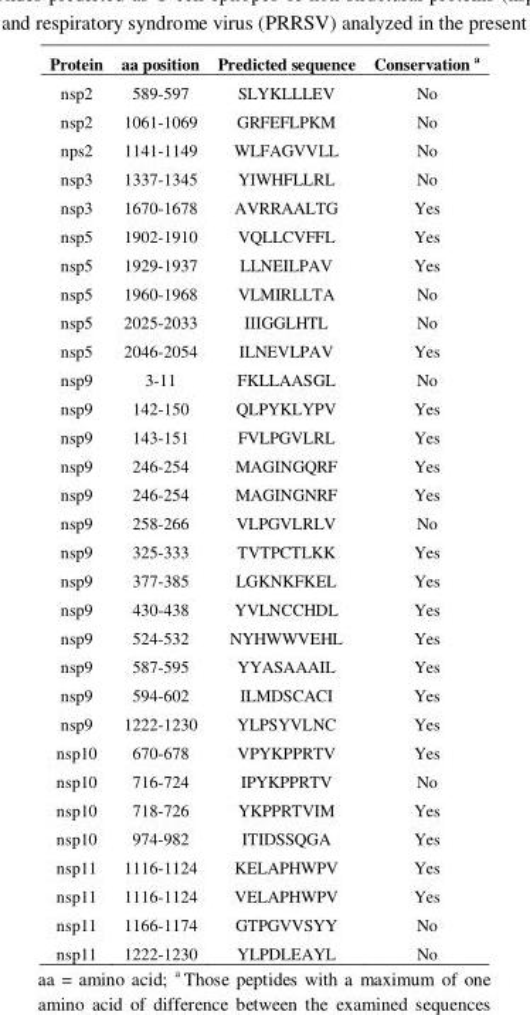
<table><thead><tr><td>Protein</td><td>aa position</td><td>Predicted sequence</td><td>Conservation <sup>a</sup></td></tr></thead><tbody><tr><td>nsp2</td><td>589-597</td><td>SLYKLLLEV</td><td>No</td></tr><tr><td>nsp2</td><td>1061-1069</td><td>GRFEFLPKM</td><td>No</td></tr><tr><td>nps2</td><td>1141-1149</td><td>WLFAGVVLL</td><td>No</td></tr><tr><td>nsp3</td><td>1337-1345</td><td>YIWHFLLRL</td><td>No</td></tr><tr><td>nsp3</td><td>1670-1678</td><td>AVRRAALTG</td><td>Yes</td></tr><tr><td>nsp5</td><td>1902-1910</td><td>VQLLCVFFL</td><td>Yes</td></tr><tr><td>nsp5</td><td>1929-1937</td><td>LLNEILPAV</td><td>Yes</td></tr><tr><td>nsp5</td><td>1960-1968</td><td>VLMIRLLTA</td><td>No</td></tr><tr><td>nsp5</td><td>2025-2033</td><td>IIIGGLHTL</td><td>No</td></tr><tr><td>nsp5</td><td>2046-2054</td><td>ILNEVLPAV</td><td>Yes</td></tr><tr><td>nsp9</td><td>3-11</td><td>FKLLAASGL</td><td>No</td></tr><tr><td>nsp9</td><td>142-150</td><td>QLPYKLYPV</td><td>Yes</td></tr><tr><td>nsp9</td><td>143-151</td><td>FVLPGVLRL</td><td>Yes</td></tr><tr><td>nsp9</td><td>246-254</td><td>MAGINGQRF</td><td>Yes</td></tr><tr><td>nsp9</td><td>246-254</td><td>MAGINGNRF</td><td>Yes</td></tr><tr><td>nsp9</td><td>258-266</td><td>VLPGVLRLV</td><td>No</td></tr><tr><td>nsp9</td><td>325-333</td><td>TVTPCTLKK</td><td>Yes</td></tr><tr><td>nsp9</td><td>377-385</td><td>LGKNKFKEL</td><td>Yes</td></tr><tr><td>nsp9</td><td>430-438</td><td>YVLNCCHDL</td><td>Yes</td></tr><tr><td>nsp9</td><td>524-532</td><td>NYHWWVEHL</td><td>Yes</td></tr><tr><td>nsp9</td><td>587-595</td><td>YYASAAAIL</td><td>Yes</td></tr><tr><td>nsp9</td><td>594-602</td><td>ILMDSCACI</td><td>Yes</td></tr><tr><td>nsp9</td><td>1222-1230</td><td>YLPSYVLNC</td><td>Yes</td></tr><tr><td>nsp10</td><td>670-678</td><td>VPYKPPRTV</td><td>Yes</td></tr><tr><td>nsp10</td><td>716-724</td><td>IPYKPPRTV</td><td>No</td></tr><tr><td>nsp10</td><td>718-726</td><td>YKPPRTVIM</td><td>Yes</td></tr><tr><td>nsp10</td><td>974-982</td><td>ITIDSSQGA</td><td>Yes</td></tr><tr><td>nsp11</td><td>1116-1124</td><td>KELAPHWPV</td><td>Yes</td></tr><tr><td>nsp11</td><td>1116-1124</td><td>VELAPHWPV</td><td>Yes</td></tr><tr><td>nsp11</td><td>1166-1174</td><td>GTPGVVSYY</td><td>No</td></tr><tr><td>nsp11</td><td>1222-1230</td><td>YLPDLEAYL</td><td>No</td></tr></tbody></table>